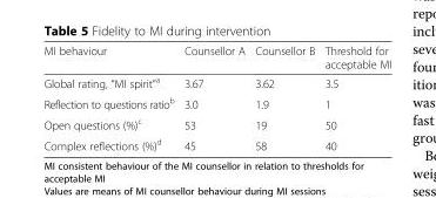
<table><thead><tr><td>MI behaviour</td><td>Counsellor A</td><td>Counsellor B</td><td>Threshold for acceptable MI</td></tr></thead><tbody><tr><td>Global rating, “MI spirit”<sup>a</sup></td><td>3.67</td><td>3.62</td><td>3.5</td></tr><tr><td>Reflection to questions ratio<sup>b</sup></td><td>3.0</td><td>1.9</td><td>1</td></tr><tr><td>Open questions (%)<sup>c</sup></td><td>53</td><td>19</td><td>50</td></tr><tr><td>Complex reflections (%)<sup>d</sup></td><td>45</td><td>58</td><td>40</td></tr></tbody></table>